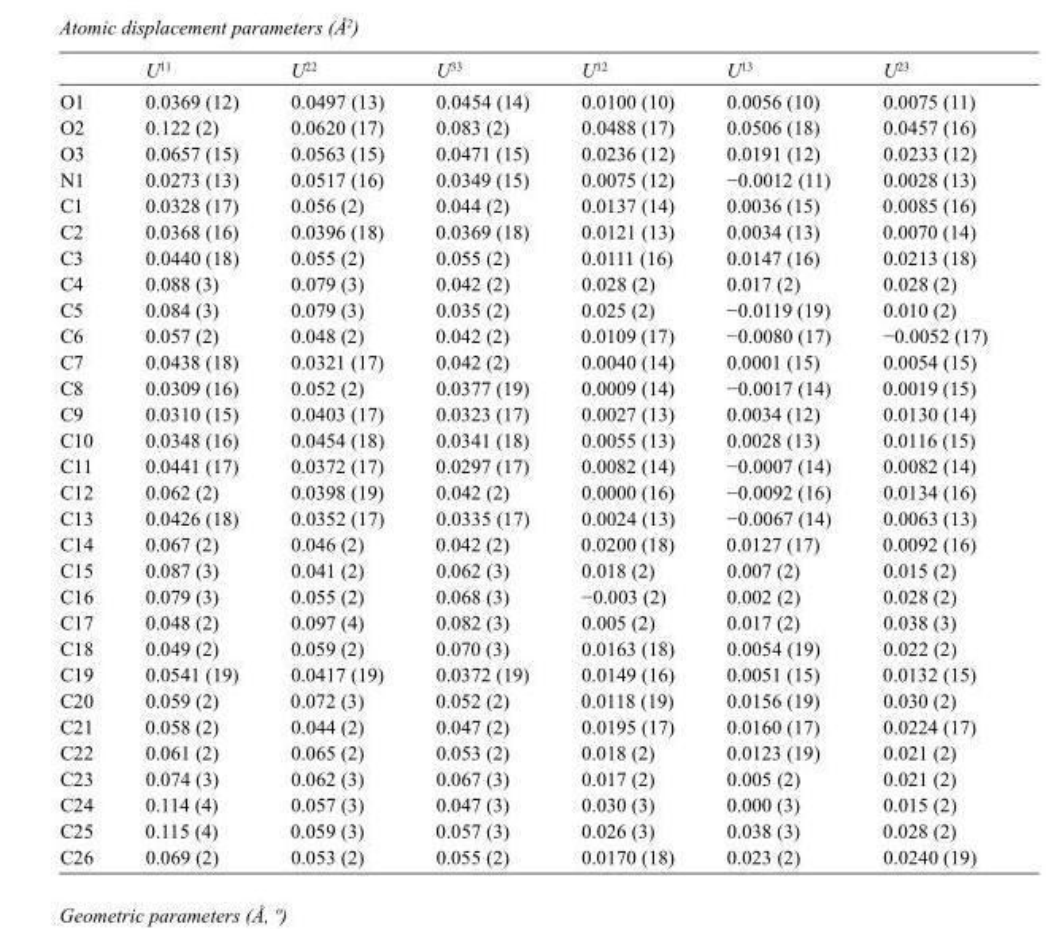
<table><thead><tr><td></td><td>U<sup>11</sup></td><td>U<sup>22</sup></td><td>U<sup>33</sup></td><td>U<sup>12</sup></td><td>U<sup>13</sup></td><td>U<sup>23</sup></td></tr></thead><tbody><tr><td>O1</td><td>0.0369 (12)</td><td>0.0497 (13)</td><td>0.0454 (14)</td><td>0.0100 (10)</td><td>0.0056 (10)</td><td>0.0075 (11)</td></tr><tr><td>O2</td><td>0.122 (2)</td><td>0.0620 (17)</td><td>0.083 (2)</td><td>0.0488 (17)</td><td>0.0506 (18)</td><td>0.0457 (16)</td></tr><tr><td>O3</td><td>0.0657 (15)</td><td>0.0563 (15)</td><td>0.0471 (15)</td><td>0.0236 (12)</td><td>0.0191 (12)</td><td>0.0233 (12)</td></tr><tr><td>N1</td><td>0.0273 (13)</td><td>0.0517 (16)</td><td>0.0349 (15)</td><td>0.0075 (12)</td><td>−0.0012 (11)</td><td>0.0028 (13)</td></tr><tr><td>C1</td><td>0.0328 (17)</td><td>0.056 (2)</td><td>0.044 (2)</td><td>0.0137 (14)</td><td>0.0036 (15)</td><td>0.0085 (16)</td></tr><tr><td>C2</td><td>0.0368 (16)</td><td>0.0396 (18)</td><td>0.0369 (18)</td><td>0.0121 (13)</td><td>0.0034 (13)</td><td>0.0070 (14)</td></tr><tr><td>C3</td><td>0.0440 (18)</td><td>0.055 (2)</td><td>0.055 (2)</td><td>0.0111 (16)</td><td>0.0147 (16)</td><td>0.0213 (18)</td></tr><tr><td>C4</td><td>0.088 (3)</td><td>0.079 (3)</td><td>0.042 (2)</td><td>0.028 (2)</td><td>0.017 (2)</td><td>0.028 (2)</td></tr><tr><td>C5</td><td>0.084 (3)</td><td>0.079 (3)</td><td>0.035 (2)</td><td>0.025 (2)</td><td>−0.0119 (19)</td><td>0.010 (2)</td></tr><tr><td>C6</td><td>0.057 (2)</td><td>0.048 (2)</td><td>0.042 (2)</td><td>0.0109 (17)</td><td>−0.0080 (17)</td><td>−0.0052 (17)</td></tr><tr><td>C7</td><td>0.0438 (18)</td><td>0.0321 (17)</td><td>0.042 (2)</td><td>0.0040 (14)</td><td>0.0001 (15)</td><td>0.0054 (15)</td></tr><tr><td>C8</td><td>0.0309 (16)</td><td>0.052 (2)</td><td>0.0377 (19)</td><td>0.0009 (14)</td><td>−0.0017 (14)</td><td>0.0019 (15)</td></tr><tr><td>C9</td><td>0.0310 (15)</td><td>0.0403 (17)</td><td>0.0323 (17)</td><td>0.0027 (13)</td><td>0.0034 (12)</td><td>0.0130 (14)</td></tr><tr><td>C10</td><td>0.0348 (16)</td><td>0.0454 (18)</td><td>0.0341 (18)</td><td>0.0055 (13)</td><td>0.0028 (13)</td><td>0.0116 (15)</td></tr><tr><td>C11</td><td>0.0441 (17)</td><td>0.0372 (17)</td><td>0.0297 (17)</td><td>0.0082 (14)</td><td>−0.0007 (14)</td><td>0.0082 (14)</td></tr><tr><td>C12</td><td>0.062 (2)</td><td>0.0398 (19)</td><td>0.042 (2)</td><td>0.0000 (16)</td><td>−0.0092 (16)</td><td>0.0134 (16)</td></tr><tr><td>C13</td><td>0.0426 (18)</td><td>0.0352 (17)</td><td>0.0335 (17)</td><td>0.0024 (13)</td><td>−0.0067 (14)</td><td>0.0063 (13)</td></tr><tr><td>C14</td><td>0.067 (2)</td><td>0.046 (2)</td><td>0.042 (2)</td><td>0.0200 (18)</td><td>0.0127 (17)</td><td>0.0092 (16)</td></tr><tr><td>C15</td><td>0.087 (3)</td><td>0.041 (2)</td><td>0.062 (3)</td><td>0.018 (2)</td><td>0.007 (2)</td><td>0.015 (2)</td></tr><tr><td>C16</td><td>0.079 (3)</td><td>0.055 (2)</td><td>0.068 (3)</td><td>−0.003 (2)</td><td>0.002 (2)</td><td>0.028 (2)</td></tr><tr><td>C17</td><td>0.048 (2)</td><td>0.097 (4)</td><td>0.082 (3)</td><td>0.005 (2)</td><td>0.017 (2)</td><td>0.038 (3)</td></tr><tr><td>C18</td><td>0.049 (2)</td><td>0.059 (2)</td><td>0.070 (3)</td><td>0.0163 (18)</td><td>0.0054 (19)</td><td>0.022 (2)</td></tr><tr><td>C19</td><td>0.0541 (19)</td><td>0.0417 (19)</td><td>0.0372 (19)</td><td>0.0149 (16)</td><td>0.0051 (15)</td><td>0.0132 (15)</td></tr><tr><td>C20</td><td>0.059 (2)</td><td>0.072 (3)</td><td>0.052 (2)</td><td>0.0118 (19)</td><td>0.0156 (19)</td><td>0.030 (2)</td></tr><tr><td>C21</td><td>0.058 (2)</td><td>0.044 (2)</td><td>0.047 (2)</td><td>0.0195 (17)</td><td>0.0160 (17)</td><td>0.0224 (17)</td></tr><tr><td>C22</td><td>0.061 (2)</td><td>0.065 (2)</td><td>0.053 (2)</td><td>0.018 (2)</td><td>0.0123 (19)</td><td>0.021 (2)</td></tr><tr><td>C23</td><td>0.074 (3)</td><td>0.062 (3)</td><td>0.067 (3)</td><td>0.017 (2)</td><td>0.005 (2)</td><td>0.021 (2)</td></tr><tr><td>C24</td><td>0.114 (4)</td><td>0.057 (3)</td><td>0.047 (3)</td><td>0.030 (3)</td><td>0.000 (3)</td><td>0.015 (2)</td></tr><tr><td>C25</td><td>0.115 (4)</td><td>0.059 (3)</td><td>0.057 (3)</td><td>0.026 (3)</td><td>0.038 (3)</td><td>0.028 (2)</td></tr><tr><td>C26</td><td>0.069 (2)</td><td>0.053 (2)</td><td>0.055 (2)</td><td>0.0170 (18)</td><td>0.023 (2)</td><td>0.0240 (19)</td></tr></tbody></table>